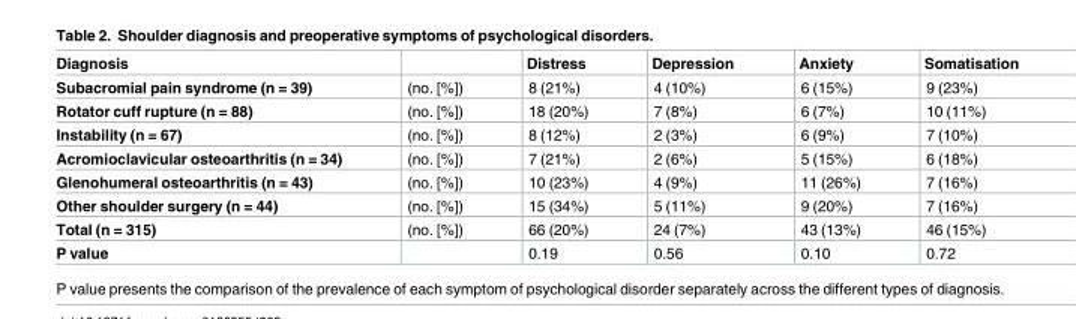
<table><thead><tr><td>Diagnosis</td><td></td><td>Distress</td><td>Depression</td><td>Anxiety</td><td>Somatisation</td></tr></thead><tbody><tr><td>Subacromial pain syndrome (n = 39)</td><td>(no. [%])</td><td>8 (21%)</td><td>4 (10%)</td><td>6 (15%)</td><td>9 (23%)</td></tr><tr><td>Rotator cuff rupture (n = 88)</td><td>(no. [%])</td><td>18 (20%)</td><td>7 (8%)</td><td>6 (7%)</td><td>10 (11%)</td></tr><tr><td>Instability (n = 67)</td><td>(no. [%])</td><td>8 (12%)</td><td>2 (3%)</td><td>6 (9%)</td><td>7 (10%)</td></tr><tr><td>Acromioclavicular osteoarthritis (n = 34)</td><td>(no. [%])</td><td>7 (21%)</td><td>2 (6%)</td><td>5 (15%)</td><td>6 (18%)</td></tr><tr><td>Glenohumeral osteoarthritis (n = 43)</td><td>(no. [%])</td><td>10 (23%)</td><td>4 (9%)</td><td>11 (26%)</td><td>7 (16%)</td></tr><tr><td>Other shoulder surgery (n = 44)</td><td>(no. [%])</td><td>15 (34%)</td><td>5 (11%)</td><td>9 (20%)</td><td>7 (16%)</td></tr><tr><td>Total (n = 315)</td><td>(no. [%])</td><td>66 (20%)</td><td>24 (7%)</td><td>43 (13%)</td><td>46 (15%)</td></tr><tr><td>P value</td><td></td><td>0.19</td><td>0.56</td><td>0.10</td><td>0.72</td></tr></tbody></table>